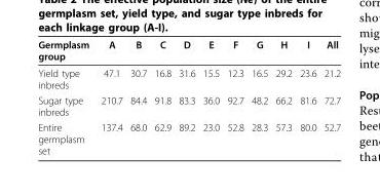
<table><thead><tr><td>Germplasm group</td><td>A</td><td>B</td><td>C</td><td>D</td><td>E</td><td>F</td><td>G</td><td>H</td><td>I</td><td>All</td></tr></thead><tbody><tr><td>Yield type inbreds</td><td>47.1</td><td>30.7</td><td>16.8</td><td>31.6</td><td>15.5</td><td>12.3</td><td>16.5</td><td>29.2</td><td>23.6</td><td>21.2</td></tr><tr><td>Sugar type inbreds</td><td>210.7</td><td>84.4</td><td>91.8</td><td>83.3</td><td>36.0</td><td>92.7</td><td>48.2</td><td>66.2</td><td>81.6</td><td>72.7</td></tr><tr><td>Entire germplasm set</td><td>137.4</td><td>68.0</td><td>62.9</td><td>89.2</td><td>23.0</td><td>52.8</td><td>28.3</td><td>57.3</td><td>80.0</td><td>52.7</td></tr></tbody></table>